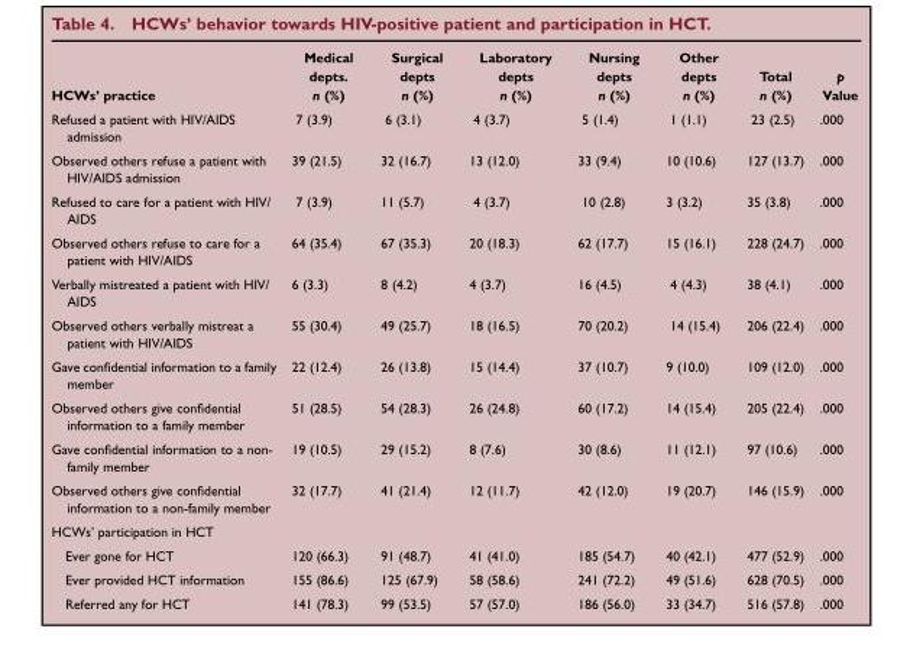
<table><thead><tr><td>HCWs’ practice</td><td>Medical depts. n (%)</td><td>Surgical depts n (%)</td><td>Laboratory depts n (%)</td><td>Nursing depts n (%)</td><td>Other depts n (%)</td><td>Total n (%)</td><td>p Value</td></tr></thead><tbody><tr><td>Refused a patient with HIV/AIDS admission</td><td>7 (3.9)</td><td>6 (3.1)</td><td>4 (3.7)</td><td>5 (1.4)</td><td>1 (1.1)</td><td>23 (2.5)</td><td>.000</td></tr><tr><td>Observed others refuse a patient with HIV/AIDS admission</td><td>39 (21.5)</td><td>32 (16.7)</td><td>13 (12.0)</td><td>33 (9.4)</td><td>10 (10.6)</td><td>127 (13.7)</td><td>.000</td></tr><tr><td>Refused to care for a patient with HIV/ AIDS</td><td>7 (3.9)</td><td>11 (5.7)</td><td>4 (3.7)</td><td>10 (2.8)</td><td>3 (3.2)</td><td>35 (3.8)</td><td>.000</td></tr><tr><td>Observed others refuse to care for a patient with HIV/AIDS</td><td>64 (35.4)</td><td>67 (35.3)</td><td>20 (18.3)</td><td>62 (17.7)</td><td>15 (16.1)</td><td>228 (24.7)</td><td>.000</td></tr><tr><td>Verbally mistreated a patient with HIV/ AIDS</td><td>6 (3.3)</td><td>8 (4.2)</td><td>4 (3.7)</td><td>16 (4.5)</td><td>4 (4.3)</td><td>38 (4.1)</td><td>.000</td></tr><tr><td>Observed others verbally mistreat a patient with HIV/AIDS</td><td>55 (30.4)</td><td>49 (25.7)</td><td>18 (16.5)</td><td>70 (20.2)</td><td>14 (15.4)</td><td>206 (22.4)</td><td>.000</td></tr><tr><td>Gave confidential information to a family member</td><td>22 (12.4)</td><td>26 (13.8)</td><td>15 (14.4)</td><td>37 (10.7)</td><td>9 (10.0)</td><td>109 (12.0)</td><td>.000</td></tr><tr><td>Observed others give confidential information to a family member</td><td>51 (28.5)</td><td>54 (28.3)</td><td>26 (24.8)</td><td>60 (17.2)</td><td>14 (15.4)</td><td>205 (22.4)</td><td>.000</td></tr><tr><td>Gave confidential information to a non- family member</td><td>19 (10.5)</td><td>29 (15.2)</td><td>8 (7.6)</td><td>30 (8.6)</td><td>11 (12.1)</td><td>97 (10.6)</td><td>.000</td></tr><tr><td>Observed others give confidential information to a non-family member</td><td>32 (17.7)</td><td>41 (21.4)</td><td>12 (11.7)</td><td>42 (12.0)</td><td>19 (20.7)</td><td>146 (15.9)</td><td>.000</td></tr><tr><td colspan="8">HCWs’ participation in HCT</td></tr><tr><td>Ever gone for HCT</td><td>120 (66.3)</td><td>91 (48.7)</td><td>41 (41.0)</td><td>185 (54.7)</td><td>40 (42.1)</td><td>477 (52.9)</td><td>.000</td></tr><tr><td>Ever provided HCT information</td><td>155 (86.6)</td><td>125 (67.9)</td><td>58 (58.6)</td><td>241 (72.2)</td><td>49 (51.6)</td><td>628 (70.5)</td><td>.000</td></tr><tr><td>Referred any for HCT</td><td>141 (78.3)</td><td>99 (53.5)</td><td>57 (57.0)</td><td>186 (56.0)</td><td>33 (34.7)</td><td>516 (57.8)</td><td>.000</td></tr></tbody></table>